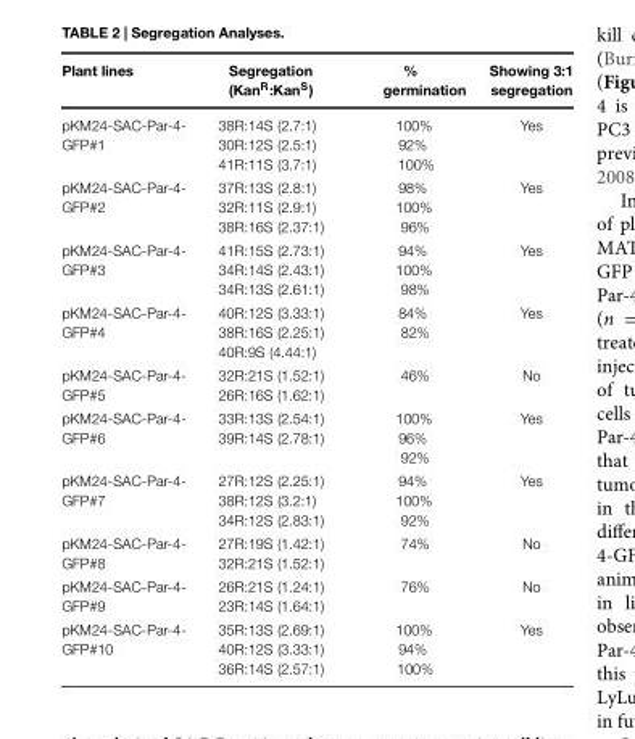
<table><thead><tr><td>Plant lines</td><td>Segregation (Kan<sup>R</sup>:Kan<sup>S</sup>)</td><td>% germination</td><td>Showing 3:1 segregation</td></tr></thead><tbody><tr><td>pKM24-SAC-Par-4- GFP#1</td><td>38R:14S (2.7:1) 30R:12S (2.5:1) 41R:11S (3.7:1)</td><td>100% 92% 100%</td><td>Yes</td></tr><tr><td>pKM24-SAC-Par-4- GFP#2</td><td>37R:13S (2.8:1) 32R:11S (2.9:1) 38R:16S (2.37:1)</td><td>98% 100% 96%</td><td>Yes</td></tr><tr><td>pKM24-SAC-Par-4- GFP#3</td><td>41R:15S (2.73:1) 34R:14S (2.43:1) 34R:13S (2.61:1)</td><td>94% 100% 98%</td><td>Yes</td></tr><tr><td>pKM24-SAC-Par-4- GFP#4</td><td>40R:12S (3.33:1) 38R:16S (2.25:1) 40R:9S (4.44:1)</td><td>84% 82%</td><td>Yes</td></tr><tr><td>pKM24-SAC-Par-4- GFP#5</td><td>32R:21S (1.52:1) 26R:16S (1.62:1)</td><td>46%</td><td>No</td></tr><tr><td>pKM24-SAC-Par-4- GFP#6</td><td>33R:13S (2.54:1) 39R:14S (2.78:1)</td><td>100% 96% 92%</td><td>Yes</td></tr><tr><td>pKM24-SAC-Par-4- GFP#7</td><td>27R:12S (2.25:1) 38R:12S (3.2:1) 34R:12S (2.83:1)</td><td>94% 100% 92%</td><td>Yes</td></tr><tr><td>pKM24-SAC-Par-4- GFP#8</td><td>27R:19S (1.42:1) 32R:21S (1.52:1)</td><td>74%</td><td>No</td></tr><tr><td>pKM24-SAC-Par-4- GFP#9</td><td>26R:21S (1.24:1) 23R:14S (1.64:1)</td><td>76%</td><td>No</td></tr><tr><td>pKM24-SAC-Par-4- GFP#10</td><td>35R:13S (2.69:1) 40R:12S (3.33:1) 36R:14S (2.57:1)</td><td>100% 94% 100%</td><td>Yes</td></tr></tbody></table>